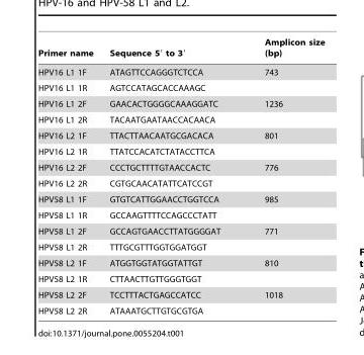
<table><thead><tr><td>Primer name</td><td>Sequence 5′ to 3′</td><td>Amplicon size (bp)</td></tr></thead><tbody><tr><td>HPV16 L1 1F</td><td>ATAGTTCCAGGGTCTCCA</td><td>743</td></tr><tr><td>HPV16 L1 1R</td><td>AGTCCATAGCACCAAAGC</td><td></td></tr><tr><td>HPV16 L1 2F</td><td>GAACACTGGGGCAAAGGATC</td><td>1236</td></tr><tr><td>HPV16 L1 2R</td><td>TACAATGAATAACCACAACA</td><td></td></tr><tr><td>HPV16 L2 1F</td><td>TTACTTAACAATGCGACACA</td><td>801</td></tr><tr><td>HPV16 L2 1R</td><td>TTATCCACATCTATACCTTCA</td><td></td></tr><tr><td>HPV16 L2 2F</td><td>CCCTGCTTTTGTAACCACTC</td><td>776</td></tr><tr><td>HPV16 L2 2R</td><td>CGTGCAACATATTCATCCGT</td><td></td></tr><tr><td>HPV58 L1 1F</td><td>GTGTCATTGGAACCTGGTCCA</td><td>985</td></tr><tr><td>HPV58 L1 1R</td><td>GCCAAGTTTTCCAGCCCTATT</td><td></td></tr><tr><td>HPV58 L1 2F</td><td>GCCAGTGAACCTTATGGGGAT</td><td>771</td></tr><tr><td>HPV58 L1 2R</td><td>TTTGCGTTTGGTGGATGGT</td><td></td></tr><tr><td>HPV58 L2 1F</td><td>ATGGTGGTATGGTATTGT</td><td>810</td></tr><tr><td>HPV58 L2 1R</td><td>CTTAACTTGTTGGGTGGT</td><td></td></tr><tr><td>HPV58 L2 2F</td><td>TCCTTTACTGAGCCATCC</td><td>1018</td></tr><tr><td>HPV58 L2 2R</td><td>ATAAATGCTTGTGCGTGA</td><td></td></tr></tbody></table>